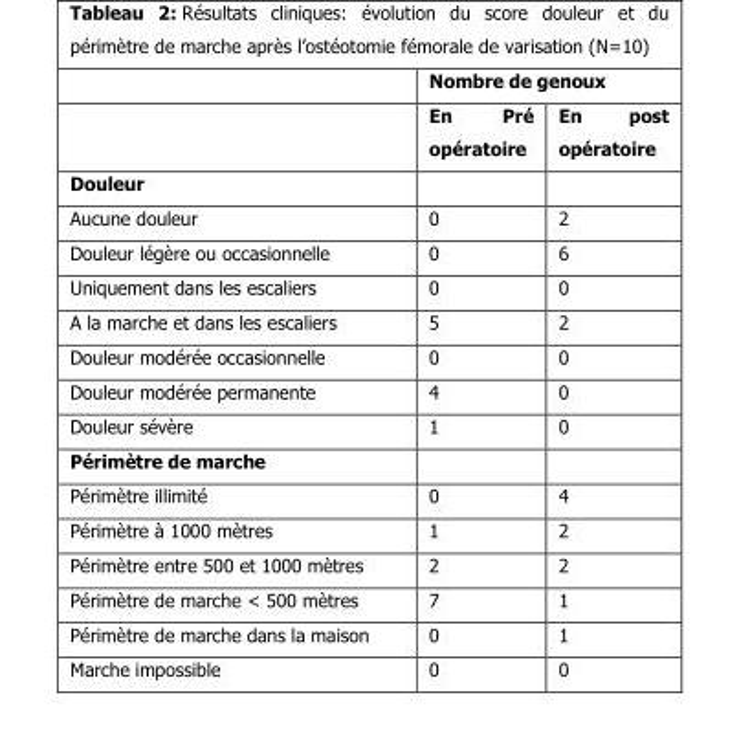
<table><thead><tr><td rowspan="2"></td><td colspan="2">Nombre de genoux</td></tr><tr><td>En Pré opératoire</td><td>En post opératoire</td></tr></thead><tbody><tr><td colspan="3">Douleur</td></tr><tr><td>Aucune douleur</td><td>0</td><td>2</td></tr><tr><td>Douleur légère ou occasionnelle</td><td>0</td><td>6</td></tr><tr><td>Uniquement dans les escaliers</td><td>0</td><td>0</td></tr><tr><td>A la marche et dans les escaliers</td><td>5</td><td>2</td></tr><tr><td>Douleur modérée occasionnelle</td><td>0</td><td>0</td></tr><tr><td>Douleur modérée permanente</td><td>4</td><td>0</td></tr><tr><td>Douleur sévère</td><td>1</td><td>0</td></tr><tr><td colspan="3">Périmètre de marche</td></tr><tr><td>Périmètre illimité</td><td>0</td><td>4</td></tr><tr><td>Périmètre à 1000 mètres</td><td>1</td><td>2</td></tr><tr><td>Périmètre entre 500 et 1000 mètres</td><td>2</td><td>2</td></tr><tr><td>Périmètre de marche &lt; 500 mètres</td><td>7</td><td>1</td></tr><tr><td>Périmètre de marche dans la maison</td><td>0</td><td>1</td></tr><tr><td>Marche impossible</td><td>0</td><td>0</td></tr></tbody></table>